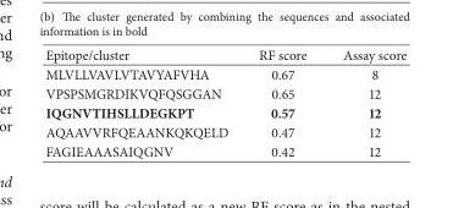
<table><thead><tr><td>Epitope/cluster</td><td>RF score</td><td>Assay score</td></tr></thead><tbody><tr><td>MLVLLVAVLVTAVYAFVHA</td><td>0.67</td><td>8</td></tr><tr><td>VPSPSMGRDIKVQFQSGGAN</td><td>0.65</td><td>12</td></tr><tr><td>IQGNVTIHSLLDEGKPT</td><td>0.57</td><td>12</td></tr><tr><td>AQAAVVRFQEAANKQKQELD</td><td>0.47</td><td>12</td></tr><tr><td>FAGIEAAASAIQGNV</td><td>0.42</td><td>12</td></tr></tbody></table>